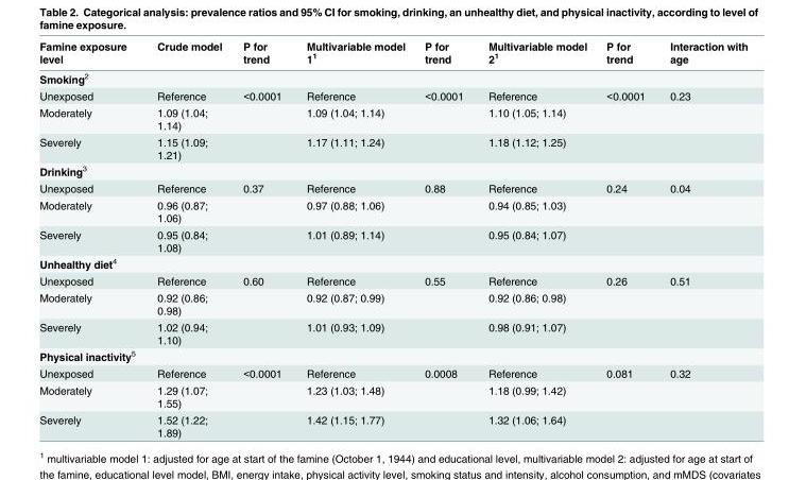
<table><thead><tr><td>Famine exposure level</td><td>Crude model</td><td>P for trend</td><td>Multivariable model 1<sup>1</sup></td><td>P for trend</td><td>Multivariable model 2<sup>1</sup></td><td>P for trend</td><td>Interaction with age</td></tr></thead><tbody><tr><td colspan="8">Smoking<sup>2</sup></td></tr><tr><td>Unexposed</td><td>Reference</td><td>&lt;0.0001</td><td>Reference</td><td>&lt;0.0001</td><td>Reference</td><td>&lt;0.0001</td><td>0.23</td></tr><tr><td>Moderately</td><td>1.09 (1.04; 1.14)</td><td></td><td>1.09 (1.04; 1.14)</td><td></td><td>1.10 (1.05; 1.14)</td><td></td><td></td></tr><tr><td>Severely</td><td>1.15 (1.09; 1.21)</td><td></td><td>1.17 (1.11; 1.24)</td><td></td><td>1.18 (1.12; 1.25)</td><td></td><td></td></tr><tr><td colspan="8">Drinking<sup>3</sup></td></tr><tr><td>Unexposed</td><td>Reference</td><td>0.37</td><td>Reference</td><td>0.88</td><td>Reference</td><td>0.24</td><td>0.04</td></tr><tr><td>Moderately</td><td>0.96 (0.87; 1.06)</td><td></td><td>0.97 (0.88; 1.06)</td><td></td><td>0.94 (0.85; 1.03)</td><td></td><td></td></tr><tr><td>Severely</td><td>0.95 (0.84; 1.08)</td><td></td><td>1.01 (0.89; 1.14)</td><td></td><td>0.95 (0.84; 1.07)</td><td></td><td></td></tr><tr><td colspan="8">Unhealthy diet<sup>4</sup></td></tr><tr><td>Unexposed</td><td>Reference</td><td>0.60</td><td>Reference</td><td>0.55</td><td>Reference</td><td>0.26</td><td>0.51</td></tr><tr><td>Moderately</td><td>0.92 (0.86; 0.98)</td><td></td><td>0.92 (0.87; 0.99)</td><td></td><td>0.92 (0.86; 0.98)</td><td></td><td></td></tr><tr><td>Severely</td><td>1.02 (0.94; 1.10)</td><td></td><td>1.01 (0.93; 1.09)</td><td></td><td>0.98 (0.91; 1.07)</td><td></td><td></td></tr><tr><td colspan="8">Physical inactivity<sup>5</sup></td></tr><tr><td>Unexposed</td><td>Reference</td><td>&lt;0.0001</td><td>Reference</td><td>0.0008</td><td>Reference</td><td>0.081</td><td>0.32</td></tr><tr><td>Moderately</td><td>1.29 (1.07; 1.55)</td><td></td><td>1.23 (1.03; 1.48)</td><td></td><td>1.18 (0.99; 1.42)</td><td></td><td></td></tr><tr><td>Severely</td><td>1.52 (1.22; 1.89)</td><td></td><td>1.42 (1.15; 1.77)</td><td></td><td>1.32 (1.06; 1.64)</td><td></td><td></td></tr></tbody></table>